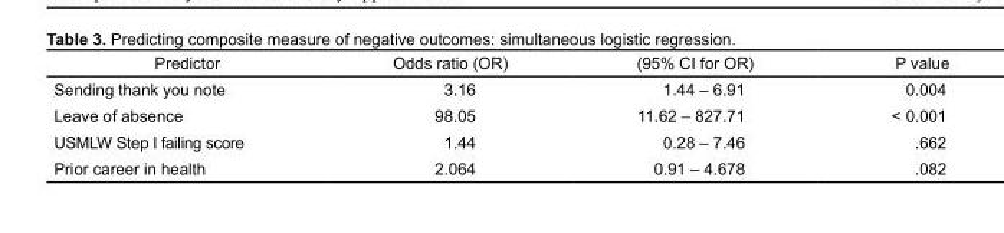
<table><thead><tr><td>Predictor</td><td>Odds ratio (OR)</td><td>(95% CI for OR)</td><td>P value</td></tr></thead><tbody><tr><td>Sending thank you note</td><td>3.16</td><td>1.44 – 6.91</td><td>0.004</td></tr><tr><td>Leave of absence</td><td>98.05</td><td>11.62 – 827.71</td><td>&lt; 0.001</td></tr><tr><td>USMLW Step I failing score</td><td>1.44</td><td>0.28 – 7.46</td><td>.662</td></tr><tr><td>Prior career in health</td><td>2.064</td><td>0.91 – 4.678</td><td>.082</td></tr></tbody></table>